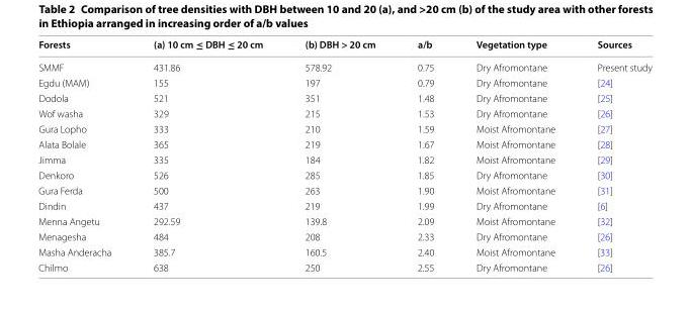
<table><thead><tr><td>Forests</td><td>(a) 10 cm ≤ DBH ≤ 20 cm</td><td>(b) DBH &gt; 20 cm</td><td>a/b</td><td>Vegetation type</td><td>Sources</td></tr></thead><tbody><tr><td>SMMF</td><td>431.86</td><td>578.92</td><td>0.75</td><td>Dry Afromontane</td><td>Present study</td></tr><tr><td>Egdu (MAM)</td><td>155</td><td>197</td><td>0.79</td><td>Dry Afromontane</td><td>[24]</td></tr><tr><td>Dodola</td><td>521</td><td>351</td><td>1.48</td><td>Dry Afromontane</td><td>[25]</td></tr><tr><td>Wof washa</td><td>329</td><td>215</td><td>1.53</td><td>Dry Afromontane</td><td>[26]</td></tr><tr><td>Gura Lopho</td><td>333</td><td>210</td><td>1.59</td><td>Moist Afromontane</td><td>[27]</td></tr><tr><td>Alata Bolale</td><td>365</td><td>219</td><td>1.67</td><td>Moist Afromontane</td><td>[28]</td></tr><tr><td>Jimma</td><td>335</td><td>184</td><td>1.82</td><td>Moist Afromontane</td><td>[29]</td></tr><tr><td>Denkoro</td><td>526</td><td>285</td><td>1.85</td><td>Dry Afromontane</td><td>[30]</td></tr><tr><td>Gura Ferda</td><td>500</td><td>263</td><td>1.90</td><td>Moist Afromontane</td><td>[31]</td></tr><tr><td>Dindin</td><td>437</td><td>219</td><td>1.99</td><td>Dry Afromontane</td><td>[6]</td></tr><tr><td>Menna Angetu</td><td>292.59</td><td>139.8</td><td>2.09</td><td>Moist Afromontane</td><td>[32]</td></tr><tr><td>Menagesha</td><td>484</td><td>208</td><td>2.33</td><td>Dry Afromontane</td><td>[26]</td></tr><tr><td>Masha Anderacha</td><td>385.7</td><td>160.5</td><td>2.40</td><td>Moist Afromontane</td><td>[33]</td></tr><tr><td>Chilmo</td><td>638</td><td>250</td><td>2.55</td><td>Dry Afromontane</td><td>[26]</td></tr></tbody></table>